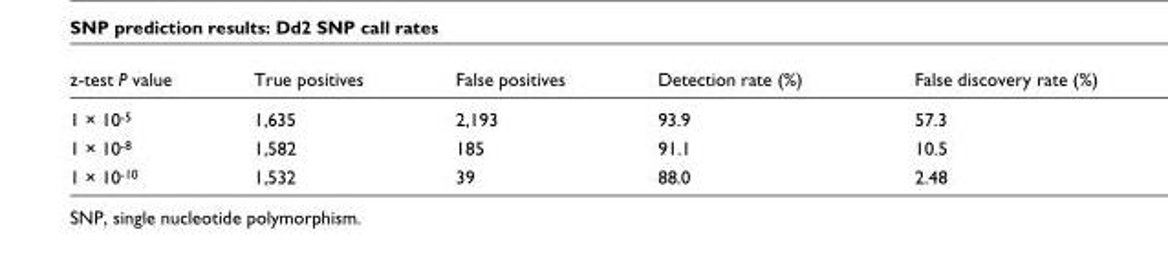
<table><thead><tr><td>z-test P value</td><td>True positives</td><td>False positives</td><td>Detection rate (%)</td><td>False discovery rate (%)</td></tr></thead><tbody><tr><td>1 × 10<sup>-5</sup></td><td>1,635</td><td>2,193</td><td>93.9</td><td>57.3</td></tr><tr><td>1 × 10<sup>-8</sup></td><td>1,582</td><td>185</td><td>91.1</td><td>10.5</td></tr><tr><td>1 × 10<sup>-10</sup></td><td>1,532</td><td>39</td><td>88.0</td><td>2.48</td></tr></tbody></table>